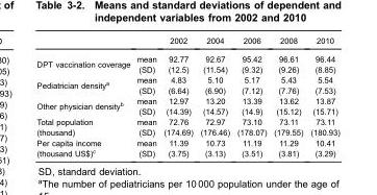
<table><thead><tr><td></td><td></td><td>2002</td><td>2004</td><td>2006</td><td>2008</td><td>2010</td></tr></thead><tbody><tr><td rowspan="2">DPT vaccination coverage</td><td>mean</td><td>92.77</td><td>92.67</td><td>95.42</td><td>96.61</td><td>96.44</td></tr><tr><td>(SD)</td><td>(12.5)</td><td>(11.54)</td><td>(9.32)</td><td>(9.26)</td><td>(8.85)</td></tr><tr><td rowspan="2">Pediatrician density<sup>a</sup></td><td>mean</td><td>4.83</td><td>5.10</td><td>5.17</td><td>5.43</td><td>5.54</td></tr><tr><td>(SD)</td><td>(6.64)</td><td>(6.90)</td><td>(7.12)</td><td>(7.76)</td><td>(7.53)</td></tr><tr><td rowspan="2">Other physician density<sup>b</sup></td><td>mean</td><td>12.97</td><td>13.20</td><td>13.39</td><td>13.62</td><td>13.87</td></tr><tr><td>(SD)</td><td>(14.39)</td><td>(14.57)</td><td>(14.9)</td><td>(15.12)</td><td>(15.71)</td></tr><tr><td rowspan="2">Total population (thousand)</td><td>mean</td><td>72.76</td><td>72.97</td><td>73.10</td><td>73.11</td><td>73.11</td></tr><tr><td>(SD)</td><td>(174.69)</td><td>(176.46)</td><td>(178.07)</td><td>(179.55)</td><td>(180.93)</td></tr><tr><td rowspan="2">Per capita income (thousand US$)<sup>c</sup></td><td>mean</td><td>11.39</td><td>10.73</td><td>11.19</td><td>11.29</td><td>10.41</td></tr><tr><td>(SD)</td><td>(3.75)</td><td>(3.13)</td><td>(3.51)</td><td>(3.81)</td><td>(3.29)</td></tr></tbody></table>